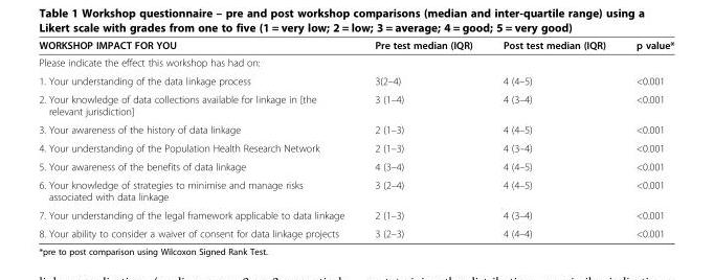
<table><thead><tr><td>WORKSHOP IMPACT FOR YOU</td><td>Pre test median (IQR)</td><td>Post test median (IQR)</td><td>p value*</td></tr></thead><tbody><tr><td colspan="4">Please indicate the effect this workshop has had on:</td></tr><tr><td>1. Your understanding of the data linkage process</td><td>3(2–4)</td><td>4 (4–5)</td><td>&lt;0.001</td></tr><tr><td>2. Your knowledge of data collections available for linkage in [the relevant jurisdiction]</td><td>3 (1–4)</td><td>4 (3–4)</td><td>&lt;0.001</td></tr><tr><td>3. Your awareness of the history of data linkage</td><td>2 (1–3)</td><td>4 (4–5)</td><td>&lt;0.001</td></tr><tr><td>4. Your understanding of the Population Health Research Network</td><td>2 (1–3)</td><td>4 (3–4)</td><td>&lt;0.001</td></tr><tr><td>5. Your awareness of the benefits of data linkage</td><td>4 (3–4)</td><td>4 (4–5)</td><td>&lt;0.001</td></tr><tr><td>6. Your knowledge of strategies to minimise and manage risks associated with data linkage</td><td>3 (2–4)</td><td>4 (4–5)</td><td>&lt;0.001</td></tr><tr><td>7. Your understanding of the legal framework applicable to data linkage</td><td>2 (1–3)</td><td>4 (3–4)</td><td>&lt;0.001</td></tr><tr><td>8. Your ability to consider a waiver of consent for data linkage projects</td><td>3 (2–3)</td><td>4 (4–4)</td><td>&lt;0.001</td></tr></tbody></table>